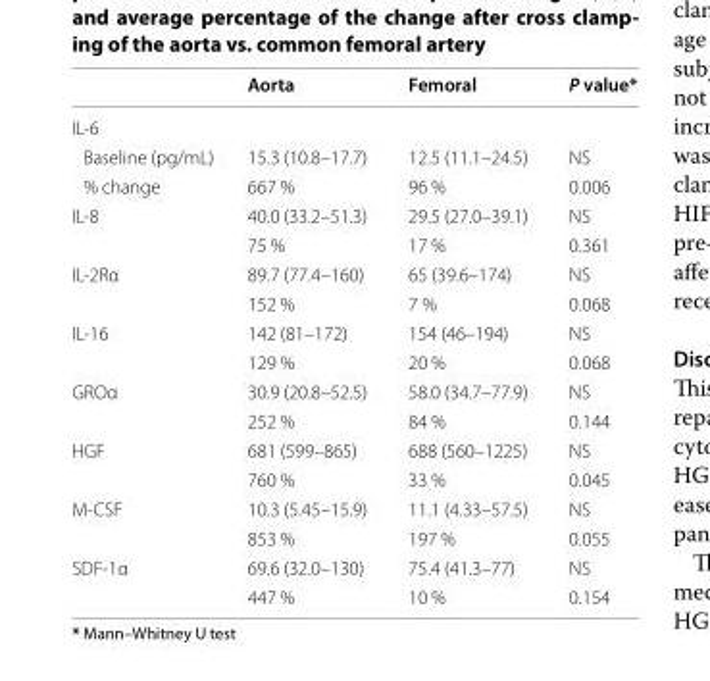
<table><thead><tr><td></td><td>Aorta</td><td>Femoral</td><td>P value*</td></tr></thead><tbody><tr><td colspan="4">IL-6</td></tr><tr><td>Baseline (pg/mL)</td><td>15.3 (10.8–17.7)</td><td>12.5 (11.1–24.5)</td><td>NS</td></tr><tr><td>% change</td><td>667 %</td><td>96 %</td><td>0.006</td></tr><tr><td rowspan="2">IL-8</td><td>40.0 (33.2–51.3)</td><td>29.5 (27.0–39.1)</td><td>NS</td></tr><tr><td>75 %</td><td>17 %</td><td>0.361</td></tr><tr><td rowspan="2">IL-2Rα</td><td>89.7 (77.4–160)</td><td>65 (39.6–174)</td><td>NS</td></tr><tr><td>152 %</td><td>7 %</td><td>0.068</td></tr><tr><td rowspan="2">IL-16</td><td>142 (81–172)</td><td>154 (46–194)</td><td>NS</td></tr><tr><td>129 %</td><td>20 %</td><td>0.068</td></tr><tr><td rowspan="2">GROα</td><td>30.9 (20.8–52.5)</td><td>58.0 (34.7–77.9)</td><td>NS</td></tr><tr><td>252 %</td><td>84 %</td><td>0.144</td></tr><tr><td rowspan="2">HGF</td><td>681 (599–865)</td><td>688 (560–1225)</td><td>NS</td></tr><tr><td>760 %</td><td>33 %</td><td>0.045</td></tr><tr><td rowspan="2">M-CSF</td><td>10.3 (5.45–15.9)</td><td>11.1 (4.33–57.5)</td><td>NS</td></tr><tr><td>853 %</td><td>197 %</td><td>0.055</td></tr><tr><td rowspan="2">SDF-1α</td><td>69.6 (32.0–130)</td><td>75.4 (41.3–77)</td><td>NS</td></tr><tr><td>447 %</td><td>10 %</td><td>0.154</td></tr></tbody></table>